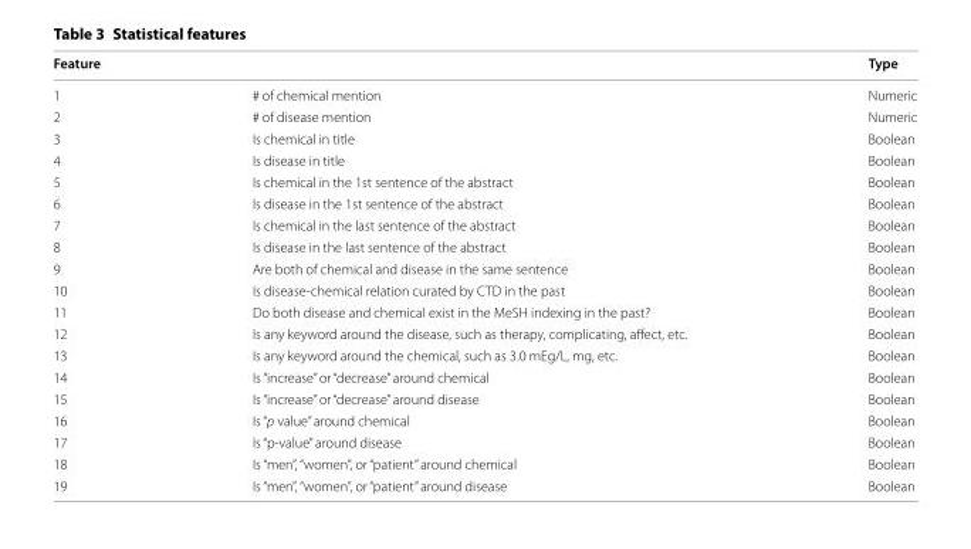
<table><thead><tr><td colspan="2">Feature</td><td rowspan="2">Type Numeric</td></tr><tr><td>1</td><td># of chemical mention</td></tr></thead><tbody><tr><td>2</td><td># of disease mention</td><td>Numeric</td></tr><tr><td>3</td><td>Is chemical in title</td><td>Boolean</td></tr><tr><td>4</td><td>Is disease in title</td><td>Boolean</td></tr><tr><td>5</td><td>Is chemical in the 1st sentence of the abstract</td><td>Boolean</td></tr><tr><td>6</td><td>Is disease in the 1st sentence of the abstract</td><td>Boolean</td></tr><tr><td>7</td><td>Is chemical in the last sentence of the abstract</td><td>Boolean</td></tr><tr><td>8</td><td>Is disease in the last sentence of the abstract</td><td>Boolean</td></tr><tr><td>9</td><td>Are both of chemical and disease in the same sentence</td><td>Boolean</td></tr><tr><td>10</td><td>Is disease‑chemical relation curated by CTD in the past</td><td>Boolean</td></tr><tr><td>11</td><td>Do both disease and chemical exist in the MeSH indexing in the past?</td><td>Boolean</td></tr><tr><td>12</td><td>Is any keyword around the disease, such as therapy, complicating, affect, etc.</td><td>Boolean</td></tr><tr><td>13</td><td>Is any keyword around the chemical, such as 3.0 mEg/L, mg, etc.</td><td>Boolean</td></tr><tr><td>14</td><td>Is “increase” or “decrease” around chemical</td><td>Boolean</td></tr><tr><td>15</td><td>Is “increase” or “decrease” around disease</td><td>Boolean</td></tr><tr><td>16</td><td>Is “p value” around chemical</td><td>Boolean</td></tr><tr><td>17</td><td>Is “p‑value” around disease</td><td>Boolean</td></tr><tr><td>18</td><td>Is “men”, “women”, or “patient” around chemical</td><td>Boolean</td></tr><tr><td>19</td><td>Is “men”, “women”, or “patient” around disease</td><td>Boolean</td></tr></tbody></table>